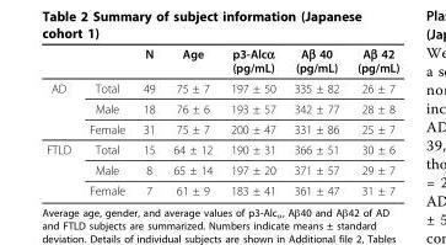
<table><thead><tr><td></td><td></td><td>N</td><td>Age</td><td>p3-Alcα (pg/mL)</td><td>Aβ 40 (pg/mL)</td><td>Aβ 42 (pg/mL)</td></tr></thead><tbody><tr><td rowspan="3">AD</td><td>Total</td><td>49</td><td>75 ± 7</td><td>197 ± 50</td><td>335 ± 82</td><td>26 ± 7</td></tr><tr><td>Male</td><td>18</td><td>76 ± 6</td><td>193 ± 57</td><td>342 ± 77</td><td>28 ± 8</td></tr><tr><td>Female</td><td>31</td><td>75 ± 7</td><td>200 ± 47</td><td>331 ± 86</td><td>25 ± 7</td></tr><tr><td rowspan="3">FTLD</td><td>Total</td><td>15</td><td>64 ± 12</td><td>190 ± 31</td><td>366 ± 51</td><td>30 ± 6</td></tr><tr><td>Male</td><td>8</td><td>65 ± 14</td><td>197 ± 20</td><td>371 ± 57</td><td>29 ± 7</td></tr><tr><td>Female</td><td>7</td><td>61 ± 9</td><td>183 ± 41</td><td>361 ± 47</td><td>31 ± 7</td></tr></tbody></table>